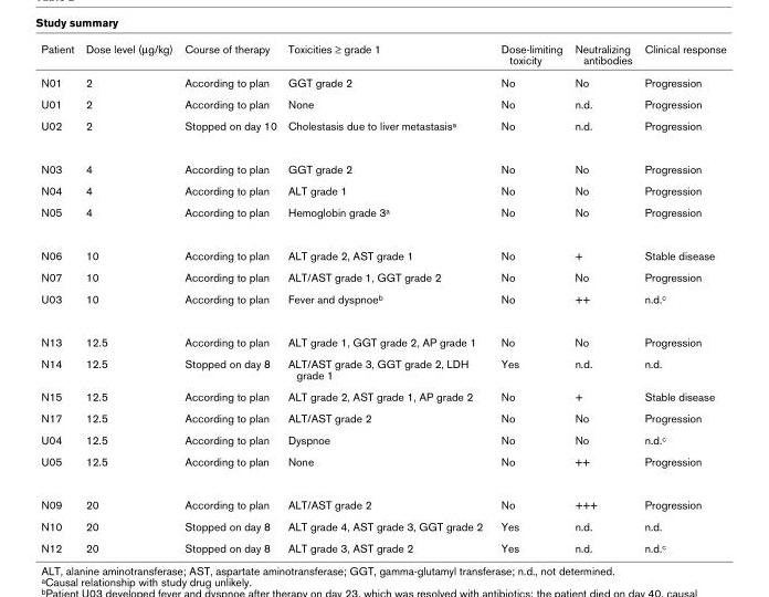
<table><thead><tr><td>Patient</td><td>Dose level (µg/kg)</td><td>Course of therapy</td><td>Toxicities ≥ grade 1</td><td>Dose-limiting toxicity</td><td>Neutralizing antibodies</td><td>Clinical response</td></tr></thead><tbody><tr><td>N01</td><td>2</td><td>According to plan</td><td>GGT grade 2</td><td>No</td><td>No</td><td>Progression</td></tr><tr><td>U01</td><td>2</td><td>According to plan</td><td>None</td><td>No</td><td>n.d.</td><td>Progression</td></tr><tr><td>U02</td><td>2</td><td>Stopped on day 10</td><td>Cholestasis due to liver metastasisa</td><td>No</td><td>n.d.</td><td>Progression</td></tr><tr><td>N03</td><td>4</td><td>According to plan</td><td>GGT grade 2</td><td>No</td><td>No</td><td>Progression</td></tr><tr><td>N04</td><td>4</td><td>According to plan</td><td>ALT grade 1</td><td>No</td><td>No</td><td>Progression</td></tr><tr><td>N05</td><td>4</td><td>According to plan</td><td>Hemoglobin grade 3a</td><td>No</td><td>No</td><td>Progression</td></tr><tr><td>N06</td><td>10</td><td>According to plan</td><td>ALT grade 2, AST grade 1</td><td>No</td><td>+</td><td>Stable disease</td></tr><tr><td>N07</td><td>10</td><td>According to plan</td><td>ALT/AST grade 1, GGT grade 2</td><td>No</td><td>No</td><td>Progression</td></tr><tr><td>U03</td><td>10</td><td>According to plan</td><td>Fever and dyspnoeb</td><td>No</td><td>++</td><td>n.d.c</td></tr><tr><td>N13</td><td>12.5</td><td>According to plan</td><td>ALT grade 1, GGT grade 2, AP grade 1</td><td>No</td><td>No</td><td>Progression</td></tr><tr><td>N14</td><td>12.5</td><td>Stopped on day 8</td><td>ALT/AST grade 3, GGT grade 2, LDH grade 1</td><td>Yes</td><td>n.d.</td><td>n.d.</td></tr><tr><td>N15</td><td>12.5</td><td>According to plan</td><td>ALT grade 2, AST grade 1, AP grade 2</td><td>No</td><td>+</td><td>Stable disease</td></tr><tr><td>N17</td><td>12.5</td><td>According to plan</td><td>ALT/AST grade 2</td><td>No</td><td>No</td><td>Progression</td></tr><tr><td>U04</td><td>12.5</td><td>According to plan</td><td>Dyspnoe</td><td>No</td><td>No</td><td>n.d.c</td></tr><tr><td>U05</td><td>12.5</td><td>According to plan</td><td>None</td><td>No</td><td>++</td><td>Progression</td></tr><tr><td>N09</td><td>20</td><td>According to plan</td><td>ALT/AST grade 2</td><td>No</td><td>+++</td><td>Progression</td></tr><tr><td>N10</td><td>20</td><td>Stopped on day 8</td><td>ALT grade 4, AST grade 3, GGT grade 2</td><td>Yes</td><td>n.d.</td><td>n.d.</td></tr><tr><td>N12</td><td>20</td><td>Stopped on day 8</td><td>ALT grade 3, AST grade 2</td><td>Yes</td><td>n.d.</td><td>n.d.c</td></tr></tbody></table>